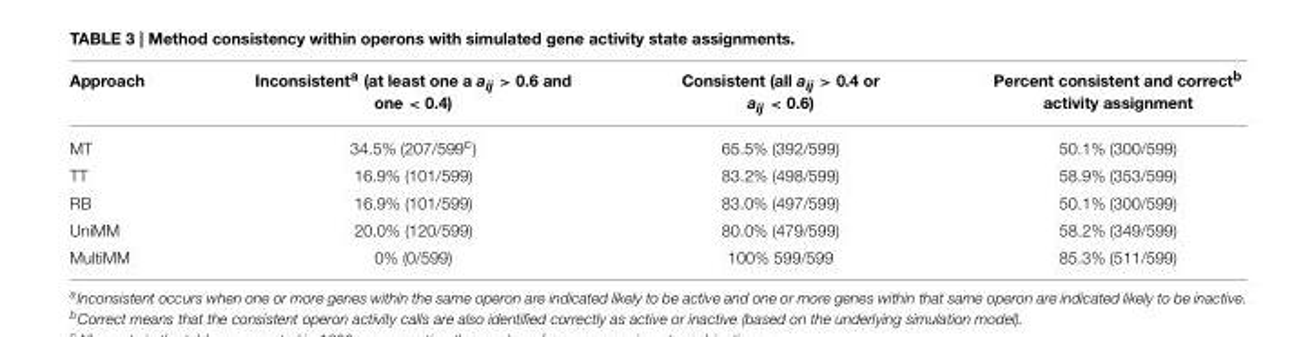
<table><thead><tr><td>Approach</td><td>Inconsistent<sup>a</sup> (at least one a a<sub>ij</sub> &gt; 0.6 and one &lt; 0.4)</td><td>Consistent (all a<sub>ij</sub> &gt; 0.4 or a<sub>ij</sub> &lt; 0.6)</td><td>Percent consistent and correct<sup>b</sup> activity assignment</td></tr></thead><tbody><tr><td>MT</td><td>34.5% (207/599<sup>c</sup>)</td><td>65.5% (392/599)</td><td>50.1% (300/599)</td></tr><tr><td>TT</td><td>16.9% (101/599)</td><td>83.2% (498/599)</td><td>58.9% (353/599)</td></tr><tr><td>RB</td><td>16.9% (101/599)</td><td>83.0% (497/599)</td><td>50.1% (300/599)</td></tr><tr><td>UniMM</td><td>20.0% (120/599)</td><td>80.0% (479/599)</td><td>58.2% (349/599)</td></tr><tr><td>MultiMM</td><td>0% (0/599)</td><td>100% 599/599</td><td>85.3% (511/599)</td></tr></tbody></table>